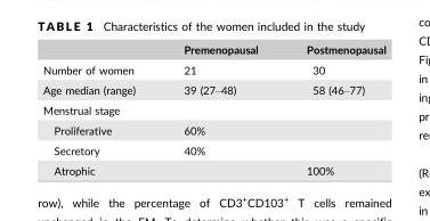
<table><thead><tr><td></td><td>Premenopausal</td><td>Postmenopausal</td></tr></thead><tbody><tr><td>Number of women</td><td>21</td><td>30</td></tr><tr><td>Age median (range)</td><td>39 (27–48)</td><td>58 (46–77)</td></tr><tr><td colspan="3">Menstrual stage</td></tr><tr><td>Proliferative</td><td>60%</td><td></td></tr><tr><td>Secretory</td><td>40%</td><td></td></tr><tr><td>Atrophic</td><td></td><td>100%</td></tr></tbody></table>